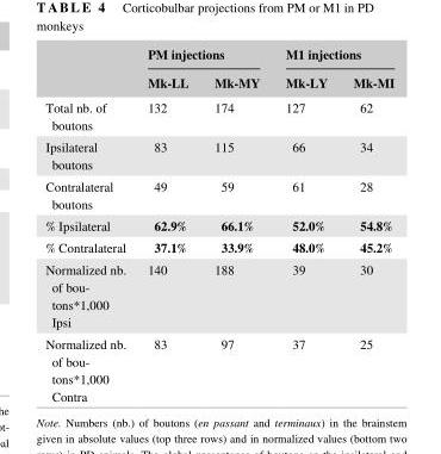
<table><thead><tr><td rowspan="2"></td><td colspan="2">PM injections</td><td colspan="2">M1 injections</td></tr><tr><td>Mk- LL</td><td>Mk- MY</td><td>Mk- LY</td><td>Mk- MI</td></tr></thead><tbody><tr><td>Total nb. of boutons</td><td>132</td><td>174</td><td>127</td><td>62</td></tr><tr><td>Ipsilateral boutons</td><td>83</td><td>115</td><td>66</td><td>34</td></tr><tr><td>Contralateral boutons</td><td>49</td><td>59</td><td>61</td><td>28</td></tr><tr><td>% Ipsilateral</td><td>62.9%</td><td>66.1%</td><td>52.0%</td><td>54.8%</td></tr><tr><td>% Contralateral</td><td>37.1%</td><td>33.9%</td><td>48.0%</td><td>45.2%</td></tr><tr><td>Normalized nb. of bou- tons*1,000 Ipsi</td><td>140</td><td>188</td><td>39</td><td>30</td></tr><tr><td>Normalized nb. of bou- tons*1,000 Contra</td><td>83</td><td>97</td><td>37</td><td>25</td></tr></tbody></table>